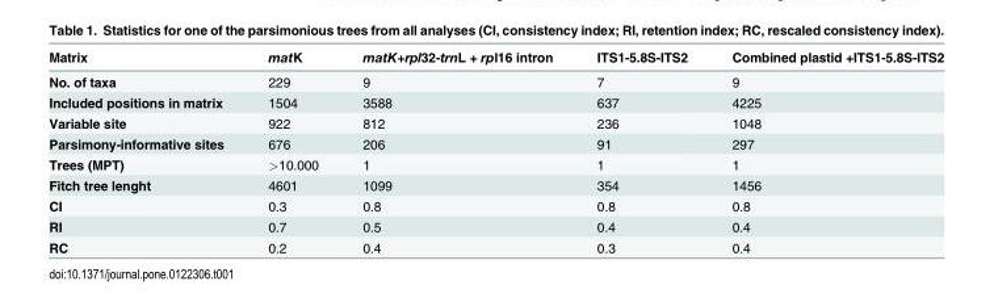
<table><thead><tr><td>Matrix</td><td>matK</td><td>matK+rpl32-trnL + rpl16 intron</td><td>ITS1-5.8S-ITS2</td><td>Combined plastid +ITS1-5.8S-ITS2</td></tr></thead><tbody><tr><td>No. of taxa</td><td>229</td><td>9</td><td>7</td><td>9</td></tr><tr><td>Included positions in matrix</td><td>1504</td><td>3588</td><td>637</td><td>4225</td></tr><tr><td>Variable site</td><td>922</td><td>812</td><td>236</td><td>1048</td></tr><tr><td>Parsimony-informative sites</td><td>676</td><td>206</td><td>91</td><td>297</td></tr><tr><td>Trees (MPT)</td><td>&gt;10.000</td><td>1</td><td>1</td><td>1</td></tr><tr><td>Fitch tree lenght</td><td>4601</td><td>1099</td><td>354</td><td>1456</td></tr><tr><td>CI</td><td>0.3</td><td>0.8</td><td>0.8</td><td>0.8</td></tr><tr><td>RI</td><td>0.7</td><td>0.5</td><td>0.4</td><td>0.4</td></tr><tr><td>RC</td><td>0.2</td><td>0.4</td><td>0.3</td><td>0.4</td></tr></tbody></table>